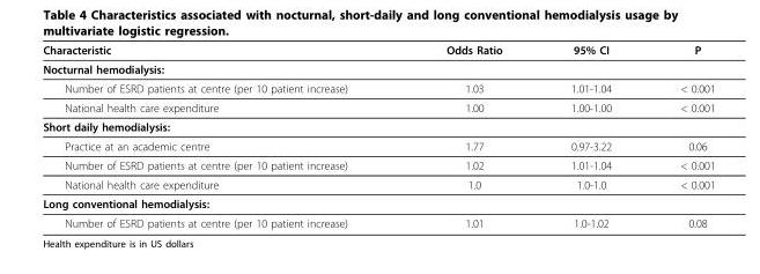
<table><thead><tr><td>Characteristic</td><td>Odds Ratio</td><td>95% CI</td><td>P</td></tr></thead><tbody><tr><td colspan="4">Nocturnal hemodialysis:</td></tr><tr><td>Number of ESRD patients at centre (per 10 patient increase)</td><td>1.03</td><td>1.01-1.04</td><td>&lt; 0.001</td></tr><tr><td>National health care expenditure</td><td>1.00</td><td>1.00-1.00</td><td>&lt; 0.001</td></tr><tr><td colspan="4">Short daily hemodialysis:</td></tr><tr><td>Practice at an academic centre</td><td>1.77</td><td>0.97-3.22</td><td>0.06</td></tr><tr><td>Number of ESRD patients at centre (per 10 patient increase)</td><td>1.02</td><td>1.01-1.04</td><td>&lt; 0.001</td></tr><tr><td>National health care expenditure</td><td>1.0</td><td>1.0-1.0</td><td>&lt; 0.001</td></tr><tr><td colspan="4">Long conventional hemodialysis:</td></tr><tr><td>Number of ESRD patients at centre (per 10 patient increase)</td><td>1.01</td><td>1.0-1.02</td><td>0.08</td></tr></tbody></table>